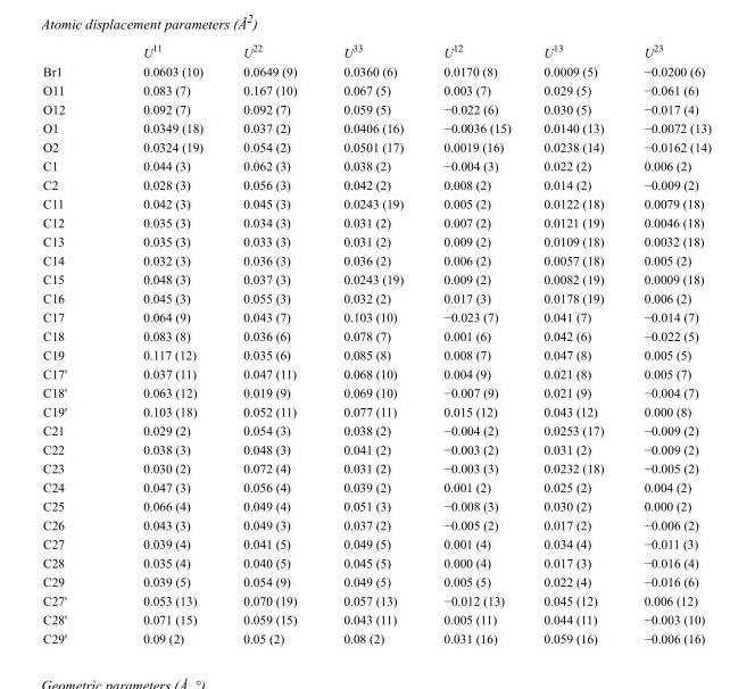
<table><thead><tr><td></td><td>U<sup>11</sup></td><td>U<sup>22</sup></td><td>U<sup>33</sup></td><td>U<sup>12</sup></td><td>U<sup>13</sup></td><td>U<sup>23</sup></td></tr></thead><tbody><tr><td>Br1</td><td>0.0603 (10)</td><td>0.0649 (9)</td><td>0.0360 (6)</td><td>0.0170 (8)</td><td>0.0009 (5)</td><td>−0.0200 (6)</td></tr><tr><td>O11</td><td>0.083 (7)</td><td>0.167 (10)</td><td>0.067 (5)</td><td>0.003 (7)</td><td>0.029 (5)</td><td>−0.061 (6)</td></tr><tr><td>O12</td><td>0.092 (7)</td><td>0.092 (7)</td><td>0.059 (5)</td><td>−0.022 (6)</td><td>0.030 (5)</td><td>−0.017 (4)</td></tr><tr><td>O1</td><td>0.0349 (18)</td><td>0.037 (2)</td><td>0.0406 (16)</td><td>−0.0036 (15)</td><td>0.0140 (13)</td><td>−0.0072 (13)</td></tr><tr><td>O2</td><td>0.0324 (19)</td><td>0.054 (2)</td><td>0.0501 (17)</td><td>0.0019 (16)</td><td>0.0238 (14)</td><td>−0.0162 (14)</td></tr><tr><td>C1</td><td>0.044 (3)</td><td>0.062 (3)</td><td>0.038 (2)</td><td>−0.004 (3)</td><td>0.022 (2)</td><td>0.006 (2)</td></tr><tr><td>C2</td><td>0.028 (3)</td><td>0.056 (3)</td><td>0.042 (2)</td><td>0.008 (2)</td><td>0.014 (2)</td><td>−0.009 (2)</td></tr><tr><td>C11</td><td>0.042 (3)</td><td>0.045 (3)</td><td>0.0243 (19)</td><td>0.005 (2)</td><td>0.0122 (18)</td><td>0.0079 (18)</td></tr><tr><td>C12</td><td>0.035 (3)</td><td>0.034 (3)</td><td>0.031 (2)</td><td>0.007 (2)</td><td>0.0121 (19)</td><td>0.0046 (18)</td></tr><tr><td>C13</td><td>0.035 (3)</td><td>0.033 (3)</td><td>0.031 (2)</td><td>0.009 (2)</td><td>0.0109 (18)</td><td>0.0032 (18)</td></tr><tr><td>C14</td><td>0.032 (3)</td><td>0.036 (3)</td><td>0.036 (2)</td><td>0.006 (2)</td><td>0.0057 (18)</td><td>0.005 (2)</td></tr><tr><td>C15</td><td>0.048 (3)</td><td>0.037 (3)</td><td>0.0243 (19)</td><td>0.009 (2)</td><td>0.0082 (19)</td><td>0.0009 (18)</td></tr><tr><td>C16</td><td>0.045 (3)</td><td>0.055 (3)</td><td>0.032 (2)</td><td>0.017 (3)</td><td>0.0178 (19)</td><td>0.006 (2)</td></tr><tr><td>C17</td><td>0.064 (9)</td><td>0.043 (7)</td><td>0.103 (10)</td><td>−0.023 (7)</td><td>0.041 (7)</td><td>−0.014 (7)</td></tr><tr><td>C18</td><td>0.083 (8)</td><td>0.036 (6)</td><td>0.078 (7)</td><td>0.001 (6)</td><td>0.042 (6)</td><td>−0.022 (5)</td></tr><tr><td>C19</td><td>0.117 (12)</td><td>0.035 (6)</td><td>0.085 (8)</td><td>0.008 (7)</td><td>0.047 (8)</td><td>0.005 (5)</td></tr><tr><td>C17&#x27;</td><td>0.037 (11)</td><td>0.047 (11)</td><td>0.068 (10)</td><td>0.004 (9)</td><td>0.021 (8)</td><td>0.005 (7)</td></tr><tr><td>C18&#x27;</td><td>0.063 (12)</td><td>0.019 (9)</td><td>0.069 (10)</td><td>−0.007 (9)</td><td>0.021 (9)</td><td>−0.004 (7)</td></tr><tr><td>C19&#x27;</td><td>0.103 (18)</td><td>0.052 (11)</td><td>0.077 (11)</td><td>0.015 (12)</td><td>0.043 (12)</td><td>0.000 (8)</td></tr><tr><td>C21</td><td>0.029 (2)</td><td>0.054 (3)</td><td>0.038 (2)</td><td>−0.004 (2)</td><td>0.0253 (17)</td><td>−0.009 (2)</td></tr><tr><td>C22</td><td>0.038 (3)</td><td>0.048 (3)</td><td>0.041 (2)</td><td>−0.003 (2)</td><td>0.031 (2)</td><td>−0.009 (2)</td></tr><tr><td>C23</td><td>0.030 (2)</td><td>0.072 (4)</td><td>0.031 (2)</td><td>−0.003 (3)</td><td>0.0232 (18)</td><td>−0.005 (2)</td></tr><tr><td>C24</td><td>0.047 (3)</td><td>0.056 (4)</td><td>0.039 (2)</td><td>0.001 (2)</td><td>0.025 (2)</td><td>0.004 (2)</td></tr><tr><td>C25</td><td>0.066 (4)</td><td>0.049 (4)</td><td>0.051 (3)</td><td>−0.008 (3)</td><td>0.030 (2)</td><td>0.000 (2)</td></tr><tr><td>C26</td><td>0.043 (3)</td><td>0.049 (3)</td><td>0.037 (2)</td><td>−0.005 (2)</td><td>0.017 (2)</td><td>−0.006 (2)</td></tr><tr><td>C27</td><td>0.039 (4)</td><td>0.041 (5)</td><td>0.049 (5)</td><td>0.001 (4)</td><td>0.034 (4)</td><td>−0.011 (3)</td></tr><tr><td>C28</td><td>0.035 (4)</td><td>0.040 (5)</td><td>0.045 (5)</td><td>0.000 (4)</td><td>0.017 (3)</td><td>−0.016 (4)</td></tr><tr><td>C29</td><td>0.039 (5)</td><td>0.054 (9)</td><td>0.049 (5)</td><td>0.005 (5)</td><td>0.022 (4)</td><td>−0.016 (6)</td></tr><tr><td>C27&#x27;</td><td>0.053 (13)</td><td>0.070 (19)</td><td>0.057 (13)</td><td>−0.012 (13)</td><td>0.045 (12)</td><td>0.006 (12)</td></tr><tr><td>C28&#x27;</td><td>0.071 (15)</td><td>0.059 (15)</td><td>0.043 (11)</td><td>0.005 (11)</td><td>0.044 (11)</td><td>−0.003 (10)</td></tr><tr><td>C29&#x27;</td><td>0.09 (2)</td><td>0.05 (2)</td><td>0.08 (2)</td><td>0.031 (16)</td><td>0.059 (16)</td><td>−0.006 (16)</td></tr></tbody></table>